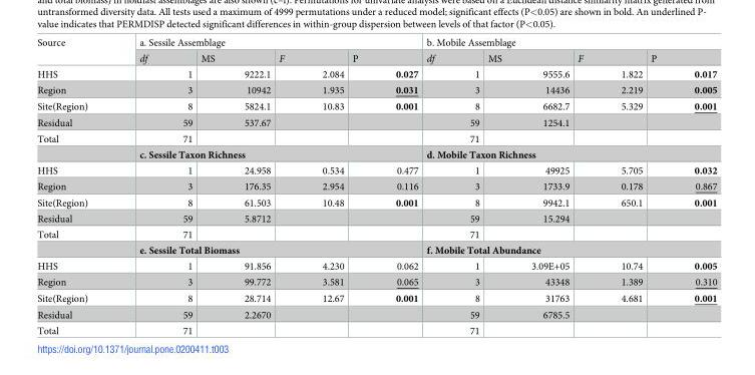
<table><tbody><tr><td rowspan="2">Source</td><td colspan="4">a. Sessile Assemblage</td><td colspan="4">b. Mobile Assemblage</td></tr><tr><td>df</td><td>MS</td><td>F</td><td>P</td><td>df</td><td>MS</td><td>F</td><td>P</td></tr><tr><td>HHS</td><td>1</td><td>9222.1</td><td>2.084</td><td>0.027</td><td>1</td><td>9555.6</td><td>1.822</td><td>0.017</td></tr><tr><td>Region</td><td>3</td><td>10942</td><td>1.935</td><td>0.031</td><td>3</td><td>14436</td><td>2.219</td><td>0.005</td></tr><tr><td>Site(Region)</td><td>8</td><td>5824.1</td><td>10.83</td><td>0.001</td><td>8</td><td>6682.7</td><td>5.329</td><td>0.001</td></tr><tr><td>Residual</td><td>59</td><td>537.67</td><td></td><td></td><td>59</td><td>1254.1</td><td></td><td></td></tr><tr><td rowspan="2">Total</td><td>71</td><td></td><td></td><td></td><td>71</td><td></td><td></td><td></td></tr><tr><td colspan="4">c. Sessile Taxon Richness</td><td colspan="4">d. Mobile Taxon Richness</td></tr><tr><td>HHS</td><td>1</td><td>24.958</td><td>0.534</td><td>0.477</td><td>1</td><td>49925</td><td>5.705</td><td>0.032</td></tr><tr><td>Region</td><td>3</td><td>176.35</td><td>2.954</td><td>0.116</td><td>3</td><td>1733.9</td><td>0.178</td><td>0.867</td></tr><tr><td>Site(Region)</td><td>8</td><td>61.503</td><td>10.48</td><td>0.001</td><td>8</td><td>9942.1</td><td>650.1</td><td>0.001</td></tr><tr><td>Residual</td><td>59</td><td>5.8712</td><td></td><td></td><td>59</td><td>15.294</td><td></td><td></td></tr><tr><td rowspan="2">Total</td><td>71</td><td></td><td></td><td></td><td>71</td><td></td><td></td><td></td></tr><tr><td colspan="4">e. Sessile Total Biomass</td><td colspan="4">f. Mobile Total Abundance</td></tr><tr><td>HHS</td><td>1</td><td>91.856</td><td>4.230</td><td>0.062</td><td>1</td><td>3.09E+05</td><td>10.74</td><td>0.005</td></tr><tr><td>Region</td><td>3</td><td>99.772</td><td>3.581</td><td>0.065</td><td>3</td><td>43348</td><td>1.389</td><td>0.310</td></tr><tr><td>Site(Region)</td><td>8</td><td>28.714</td><td>12.67</td><td>0.001</td><td>8</td><td>31763</td><td>4.681</td><td>0.001</td></tr><tr><td>Residual</td><td>59</td><td>2.2670</td><td></td><td></td><td>59</td><td>6785.5</td><td></td><td></td></tr><tr><td>Total</td><td>71</td><td></td><td></td><td></td><td>71</td><td></td><td></td><td></td></tr></tbody></table>